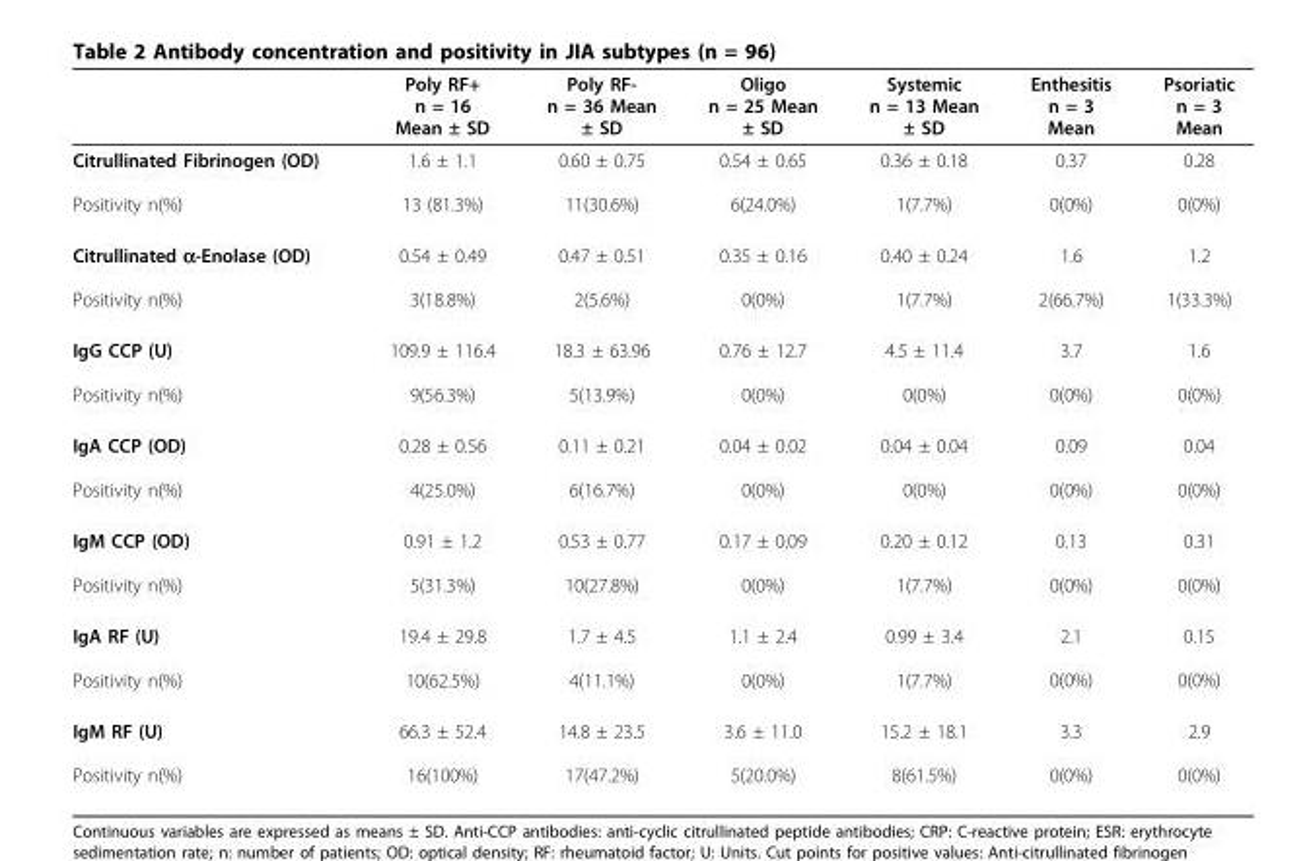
<table><thead><tr><td></td><td>Poly RF+ n = 16 Mean ± SD</td><td>Poly RF- n = 36 Mean ± SD</td><td>Oligo n = 25 Mean ± SD</td><td>Systemic n = 13 Mean ± SD</td><td>Enthesitis n = 3 Mean</td><td>Psoriatic n = 3 Mean</td></tr></thead><tbody><tr><td>Citrullinated Fibrinogen (OD) Positivity n(%)</td><td>1.6 ± 1.1 13 (81.3%)</td><td>0.60 ± 0.75 11(30.6%)</td><td>0.54 ± 0.65 6(24.0%)</td><td>0.36 ± 0.18 1(7.7%)</td><td>0.37 0(0%)</td><td>0.28 0(0%)</td></tr><tr><td>Citrullinated α-Enolase (OD) Positivity n(%)</td><td>0.54 ± 0.49 3(18.8%)</td><td>0.47 ± 0.51 2(5.6%)</td><td>0.35 ± 0.16 0(0%)</td><td>0.40 ± 0.24 1(7.7%)</td><td>1.6 2(66.7%)</td><td>1.2 1(33.3%)</td></tr><tr><td>IgG CCP (U) Positivity n(%)</td><td>109.9 ± 116.4 9(56.3%)</td><td>18.3 ± 63.96 5(13.9%)</td><td>0.76 ± 12.7 0(0%)</td><td>4.5 ± 11.4 0(0%)</td><td>3.7 0(0%)</td><td>1.6 0(0%)</td></tr><tr><td>IgA CCP (OD) Positivity n(%)</td><td>0.28 ± 0.56 4(25.0%)</td><td>0.11 ± 0.21 6(16.7%)</td><td>0.04 ± 0.02 0(0%)</td><td>0.04 ± 0.04 0(0%)</td><td>0.09 0(0%)</td><td>0.04 0(0%)</td></tr><tr><td>IgM CCP (OD) Positivity n(%)</td><td>0.91 ± 1.2 5(31.3%)</td><td>0.53 ± 0.77 10(27.8%)</td><td>0.17 ± 0.09 0(0%)</td><td>0.20 ± 0.12 1(7.7%)</td><td>0.13 0(0%)</td><td>0.31 0(0%)</td></tr><tr><td>IgA RF (U) Positivity n(%)</td><td>19.4 ± 29.8 10(62.5%)</td><td>1.7 ± 4.5 4(11.1%)</td><td>1.1 ± 2.4 0(0%)</td><td>0.99 ± 3.4 1(7.7%)</td><td>2.1 0(0%)</td><td>0.15 0(0%)</td></tr><tr><td>IgM RF (U) Positivity n(%)</td><td>66.3 ± 52.4 16(100%)</td><td>14.8 ± 23.5 17(47.2%)</td><td>3.6 ± 11.0 5(20.0%)</td><td>15.2 ± 18.1 8(61.5%)</td><td>3.3 0(0%)</td><td>2.9 0(0%)</td></tr></tbody></table>